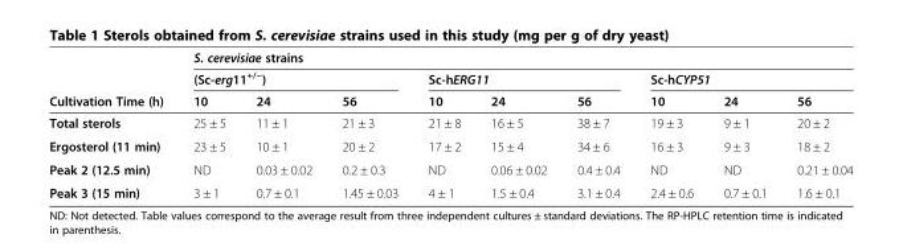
<table><thead><tr><td rowspan="3">Cultivation Time (h)</td><td colspan="9">S. cerevisiae strains</td></tr><tr><td colspan="3">(Sc-erg11<sup>+/−</sup>)</td><td colspan="3">Sc-hERG11</td><td colspan="3">Sc-hCYP51</td></tr><tr><td>10</td><td>24</td><td>56</td><td>10</td><td>24</td><td>56</td><td>10</td><td>24</td><td>56</td></tr></thead><tbody><tr><td>Total sterols</td><td>25 ± 5</td><td>11 ± 1</td><td>21 ± 3</td><td>21 ± 8</td><td>16 ± 5</td><td>38 ± 7</td><td>19 ± 3</td><td>9 ± 1</td><td>20 ± 2</td></tr><tr><td>Ergosterol (11 min)</td><td>23 ± 5</td><td>10 ± 1</td><td>20 ± 2</td><td>17 ± 2</td><td>15 ± 4</td><td>34 ± 6</td><td>16 ± 3</td><td>9 ± 3</td><td>18 ± 2</td></tr><tr><td>Peak 2 (12.5 min)</td><td>ND</td><td>0.03 ± 0.02</td><td>0.2 ± 0.3</td><td>ND</td><td>0.06 ± 0.02</td><td>0.4 ± 0.4</td><td>ND</td><td>ND</td><td>0.21 ± 0.04</td></tr><tr><td>Peak 3 (15 min)</td><td>3 ± 1</td><td>0.7 ± 0.1</td><td>1.45 ± 0.03</td><td>4 ± 1</td><td>1.5 ± 0.4</td><td>3.1 ± 0.4</td><td>2.4 ± 0.6</td><td>0.7 ± 0.1</td><td>1.6 ± 0.1</td></tr></tbody></table>